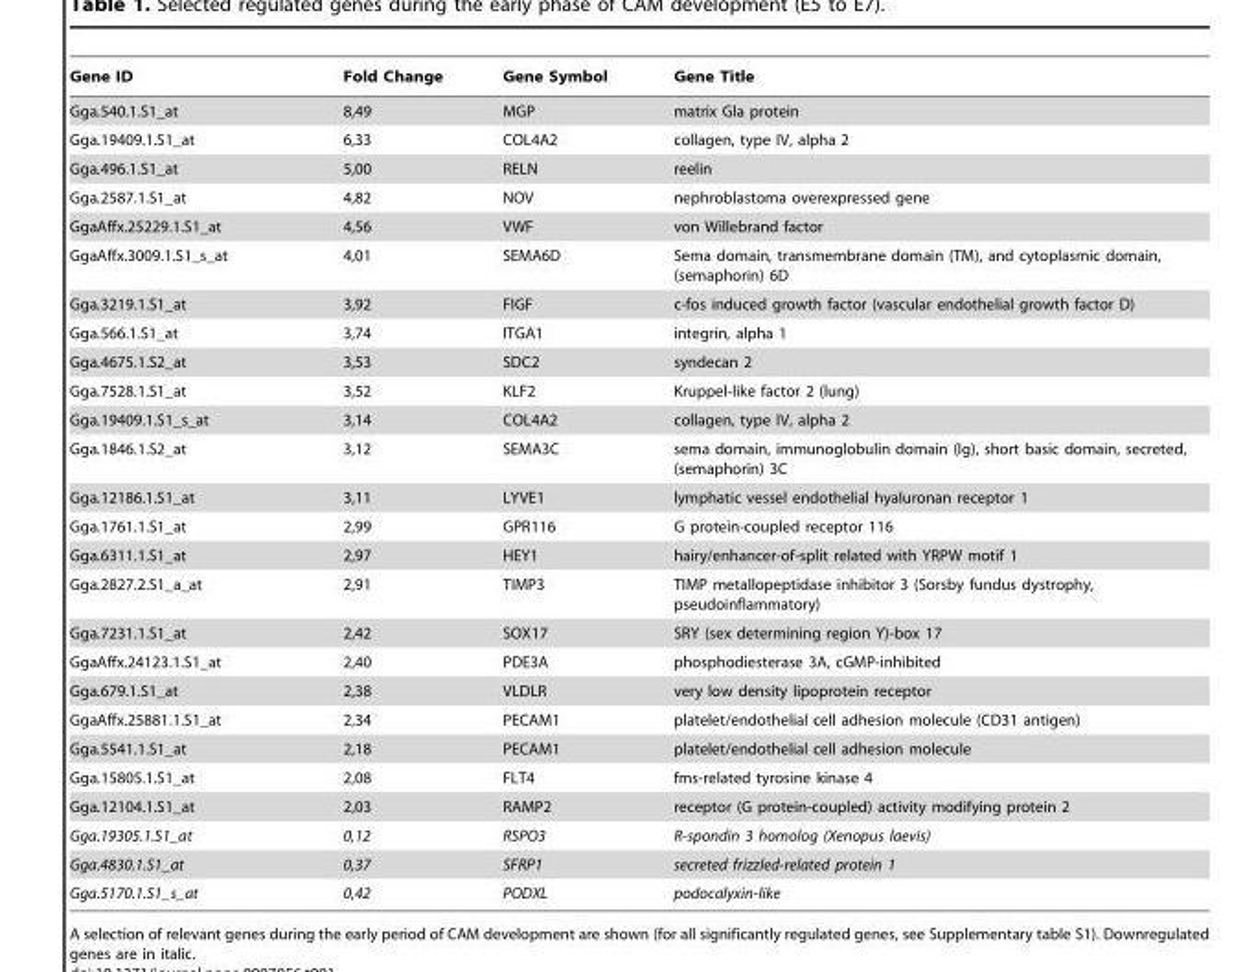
<table><thead><tr><td>Gene ID</td><td>Fold Change</td><td>Gene Symbol</td><td>Gene Title</td></tr></thead><tbody><tr><td>Gga.540.1.S1_at</td><td>8,49</td><td>MGP</td><td>matrix Gla protein</td></tr><tr><td>Gga.19409.1.S1_at</td><td>6,33</td><td>COL4A2</td><td>collagen, type IV, alpha 2</td></tr><tr><td>Gga.496.1.S1_at</td><td>5,00</td><td>RELN</td><td>reelin</td></tr><tr><td>Gga.2587.1.S1_at</td><td>4,82</td><td>NOV</td><td>nephroblastoma overexpressed gene</td></tr><tr><td>GgaAffx.25229.1.S1_at</td><td>4,56</td><td>VWF</td><td>von Willebrand factor</td></tr><tr><td>GgaAffx.3009.1.S1_s_at</td><td>4,01</td><td>SEMA6D</td><td>Sema domain, transmembrane domain (TM), and cytoplasmic domain, (semaphorin) 6D</td></tr><tr><td>Gga.3219.1.S1_at</td><td>3,92</td><td>FIGF</td><td>c-fos induced growth factor (vascular endothelial growth factor D)</td></tr><tr><td>Gga.566.1.S1_at</td><td>3,74</td><td>ITGA1</td><td>integrin, alpha 1</td></tr><tr><td>Gga.4675.1.S2_at</td><td>3,53</td><td>SDC2</td><td>syndecan 2</td></tr><tr><td>Gga.7528.1.S1_at</td><td>3,52</td><td>KLF2</td><td>Kruppel-like factor 2 (lung)</td></tr><tr><td>Gga.19409.1.S1_s_at</td><td>3,14</td><td>COL4A2</td><td>collagen, type IV, alpha 2</td></tr><tr><td>Gga.1846.1.S2_at</td><td>3,12</td><td>SEMA3C</td><td>sema domain, immunoglobulin domain (Ig), short basic domain, secreted, (semaphorin) 3C</td></tr><tr><td>Gga.12186.1.S1_at</td><td>3,11</td><td>LYVE1</td><td>lymphatic vessel endothelial hyaluronan receptor 1</td></tr><tr><td>Gga.1761.1.S1_at</td><td>2,99</td><td>GPR116</td><td>G protein-coupled receptor 116</td></tr><tr><td>Gga.6311.1.S1_at</td><td>2,97</td><td>HEY1</td><td>hairy/enhancer-of-split related with YRPW motif 1</td></tr><tr><td>Gga.2827.2.S1_a_at</td><td>2,91</td><td>TIMP3</td><td>TIMP metallopeptidase inhibitor 3 (Sorsby fundus dystrophy, pseudoinflammatory)</td></tr><tr><td>Gga.7231.1.S1_at</td><td>2,42</td><td>SOX17</td><td>SRY (sex determining region Y)-box 17</td></tr><tr><td>GgaAffx.24123.1.S1_at</td><td>2,40</td><td>PDE3A</td><td>phosphodiesterase 3A, cGMP-inhibited</td></tr><tr><td>Gga.679.1.S1_at</td><td>2,38</td><td>VLDLR</td><td>very low density lipoprotein receptor</td></tr><tr><td>GgaAffx.25881.1.S1_at</td><td>2,34</td><td>PECAM1</td><td>platelet/endothelial cell adhesion molecule (CD31 antigen)</td></tr><tr><td>Gga.5541.1.S1_at</td><td>2,18</td><td>PECAM1</td><td>platelet/endothelial cell adhesion molecule</td></tr><tr><td>Gga.15805.1.S1_at</td><td>2,08</td><td>FLT4</td><td>fms-related tyrosine kinase 4</td></tr><tr><td>Gga.12104.1.S1_at</td><td>2,03</td><td>RAMP2</td><td>receptor (G protein-coupled) activity modifying protein 2</td></tr><tr><td>Gga.19305.1.S1_at</td><td>0,12</td><td>RSPO3</td><td>R-spondin 3 homolog (Xenopus laevis)</td></tr><tr><td>Gga.4830.1.S1_at</td><td>0,37</td><td>SFRP1</td><td>secreted frizzled-related protein 1</td></tr><tr><td>Gga.5170.1.S1_s_at</td><td>0,42</td><td>PODXL</td><td>podocalyxin-like</td></tr></tbody></table>